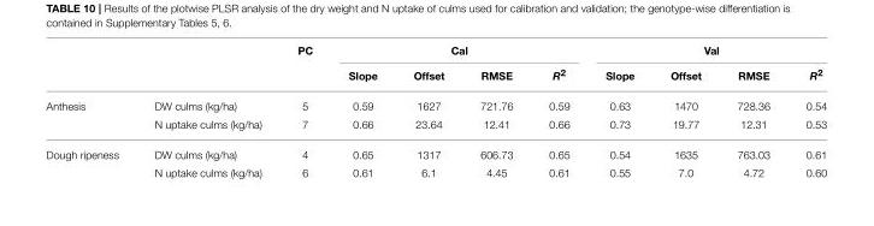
<table><thead><tr><td rowspan="2"></td><td rowspan="2"></td><td rowspan="2">PC</td><td colspan="4">Cal</td><td colspan="4">Val</td></tr><tr><td>Slope</td><td>Offset</td><td>RMSE</td><td>R<sup>2</sup></td><td>Slope</td><td>Offset</td><td>RMSE</td><td>R<sup>2</sup></td></tr></thead><tbody><tr><td rowspan="2">Anthesis</td><td>DW culms (kg/ha)</td><td>5</td><td>0.59</td><td>1627</td><td>721.76</td><td>0.59</td><td>0.63</td><td>1470</td><td>728.36</td><td>0.54</td></tr><tr><td>N uptake culms (kg/ha)</td><td>7</td><td>0.66</td><td>23.64</td><td>12.41</td><td>0.66</td><td>0.73</td><td>19.77</td><td>12.31</td><td>0.53</td></tr><tr><td rowspan="2">Dough ripeness</td><td>DW culms (kg/ha)</td><td>4</td><td>0.65</td><td>1317</td><td>606.73</td><td>0.65</td><td>0.54</td><td>1635</td><td>763.03</td><td>0.61</td></tr><tr><td>N uptake culms (kg/ha)</td><td>6</td><td>0.61</td><td>6.1</td><td>4.45</td><td>0.61</td><td>0.55</td><td>7.0</td><td>4.72</td><td>0.60</td></tr></tbody></table>